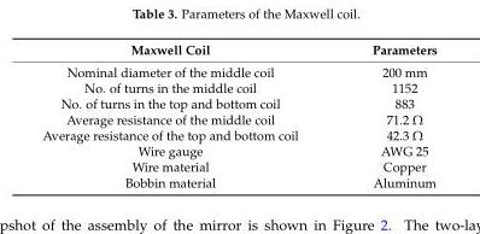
<table><thead><tr><td>Maxwell Coil</td><td>Parameters</td></tr></thead><tbody><tr><td>Nominal diameter of the middle coil</td><td>200 mm</td></tr><tr><td>No. of turns in the middle coil</td><td>1152</td></tr><tr><td>No. of turns in the top and bottom coil</td><td>883</td></tr><tr><td>Average resistance of the middle coil</td><td>71.2 Ω</td></tr><tr><td>Average resistance of the top and bottom coil</td><td>42.3 Ω</td></tr><tr><td>Wire gauge</td><td>AWG 25</td></tr><tr><td>Wire material</td><td>Copper</td></tr><tr><td>Bobbin material</td><td>Aluminum</td></tr></tbody></table>